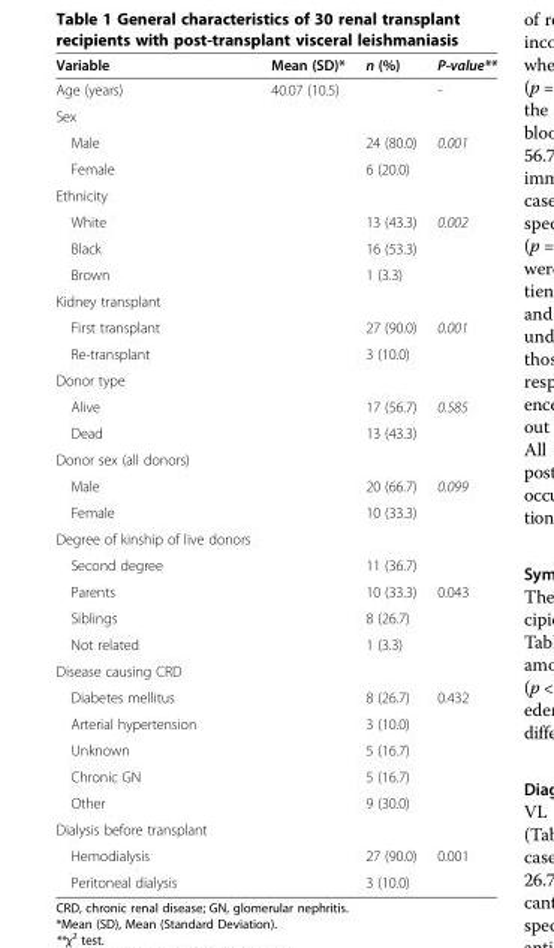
<table><thead><tr><td>Variable</td><td>Mean (SD)*</td><td>n (%)</td><td>P-value**</td></tr></thead><tbody><tr><td>Age (years)</td><td>40.07 (10.5)</td><td></td><td>-</td></tr><tr><td colspan="4">Sex</td></tr><tr><td>Male</td><td></td><td>24 (80.0)</td><td rowspan="2">0.001</td></tr><tr><td>Female</td><td></td><td>6 (20.0)</td></tr><tr><td colspan="4">Ethnicity</td></tr><tr><td>White</td><td></td><td>13 (43.3)</td><td rowspan="3">0.002</td></tr><tr><td>Black</td><td></td><td>16 (53.3)</td></tr><tr><td>Brown</td><td></td><td>1 (3.3)</td></tr><tr><td colspan="4">Kidney transplant</td></tr><tr><td>First transplant</td><td></td><td>27 (90.0)</td><td rowspan="2">0.001</td></tr><tr><td>Re-transplant</td><td></td><td>3 (10.0)</td></tr><tr><td colspan="4">Donor type</td></tr><tr><td>Alive</td><td></td><td>17 (56.7)</td><td rowspan="2">0.585</td></tr><tr><td>Dead</td><td></td><td>13 (43.3)</td></tr><tr><td colspan="4">Donor sex (all donors)</td></tr><tr><td>Male</td><td></td><td>20 (66.7)</td><td rowspan="2">0.099</td></tr><tr><td>Female</td><td></td><td>10 (33.3)</td></tr><tr><td colspan="4">Degree of kinship of live donors</td></tr><tr><td>Second degree</td><td></td><td>11 (36.7)</td><td></td></tr><tr><td>Parents</td><td></td><td>10 (33.3)</td><td rowspan="3">0.043</td></tr><tr><td>Siblings</td><td></td><td>8 (26.7)</td></tr><tr><td>Not related</td><td></td><td>1 (3.3)</td></tr><tr><td colspan="4">Disease causing CRD</td></tr><tr><td>Diabetes mellitus</td><td></td><td>8 (26.7)</td><td rowspan="5">0.432</td></tr><tr><td>Arterial hypertension</td><td></td><td>3 (10.0)</td></tr><tr><td>Unknown</td><td></td><td>5 (16.7)</td></tr><tr><td>Chronic GN</td><td></td><td>5 (16.7)</td></tr><tr><td>Other</td><td></td><td>9 (30.0)</td></tr><tr><td colspan="4">Dialysis before transplant</td></tr><tr><td>Hemodialysis</td><td></td><td>27 (90.0)</td><td rowspan="2">0.001</td></tr><tr><td>Peritoneal dialysis</td><td></td><td>3 (10.0)</td></tr></tbody></table>